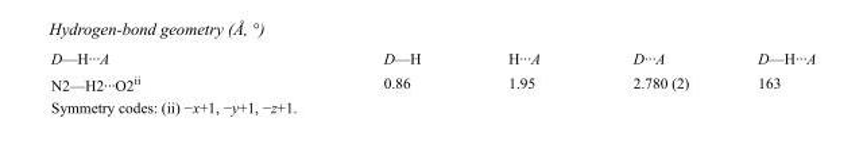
<table><tbody><tr><td>D—H···A</td><td>D—H</td><td>H···A</td><td>D···A</td><td>D—H···A</td></tr><tr><td>N2—H2···O2<sup>ii</sup></td><td>0.86</td><td>1.95</td><td>2.780 (2)</td><td>163</td></tr></tbody></table>